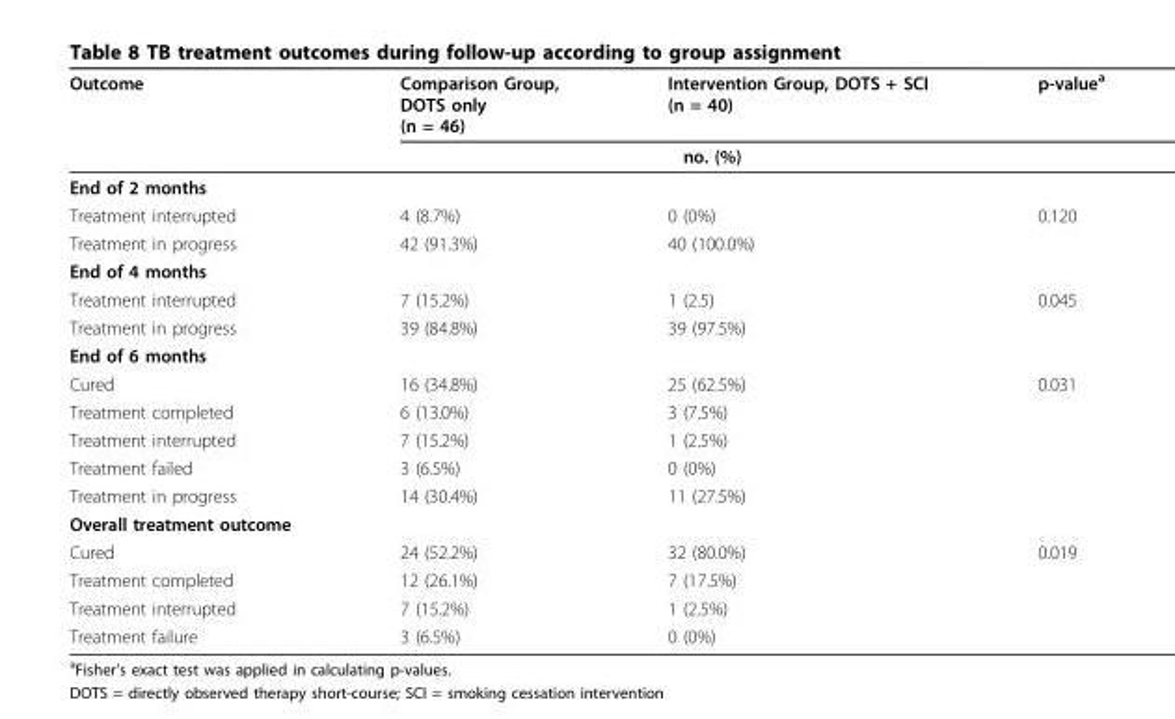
<table><thead><tr><td rowspan="2">Outcome</td><td>Comparison Group, DOTS only (n = 46)</td><td>Intervention Group, DOTS + SCI (n = 40)</td><td rowspan="2">p-value<sup>a</sup></td></tr><tr><td colspan="2">no. (%)</td></tr></thead><tbody><tr><td colspan="4">End of 2 months</td></tr><tr><td>Treatment interrupted</td><td>4 (8.7%)</td><td>0 (0%)</td><td>0.120</td></tr><tr><td>Treatment in progress</td><td>42 (91.3%)</td><td>40 (100.0%)</td><td></td></tr><tr><td colspan="4">End of 4 months</td></tr><tr><td>Treatment interrupted</td><td>7 (15.2%)</td><td>1 (2.5)</td><td>0.045</td></tr><tr><td>Treatment in progress</td><td>39 (84.8%)</td><td>39 (97.5%)</td><td></td></tr><tr><td colspan="4">End of 6 months</td></tr><tr><td>Cured</td><td>16 (34.8%)</td><td>25 (62.5%)</td><td>0.031</td></tr><tr><td>Treatment completed</td><td>6 (13.0%)</td><td>3 (7.5%)</td><td></td></tr><tr><td>Treatment interrupted</td><td>7 (15.2%)</td><td>1 (2.5%)</td><td></td></tr><tr><td>Treatment failed</td><td>3 (6.5%)</td><td>0 (0%)</td><td></td></tr><tr><td>Treatment in progress</td><td>14 (30.4%)</td><td>11 (27.5%)</td><td></td></tr><tr><td colspan="4">Overall treatment outcome</td></tr><tr><td>Cured</td><td>24 (52.2%)</td><td>32 (80.0%)</td><td>0.019</td></tr><tr><td>Treatment completed</td><td>12 (26.1%)</td><td>7 (17.5%)</td><td></td></tr><tr><td>Treatment interrupted</td><td>7 (15.2%)</td><td>1 (2.5%)</td><td></td></tr><tr><td>Treatment failure</td><td>3 (6.5%)</td><td>0 (0%)</td><td></td></tr></tbody></table>